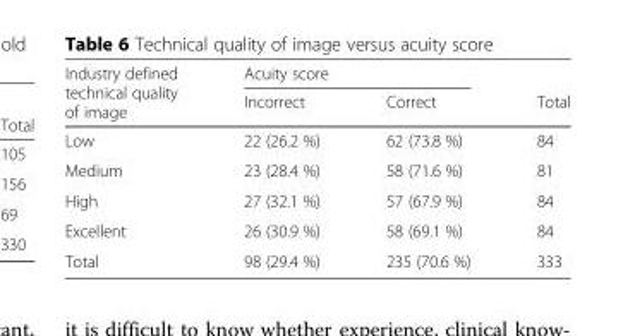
<table><thead><tr><td rowspan="2">Industry defined technical quality of image</td><td colspan="2">Acuity score</td><td rowspan="2">Total</td></tr><tr><td>Incorrect</td><td>Correct</td></tr></thead><tbody><tr><td>Low</td><td>22 (26.2 %)</td><td>62 (73.8 %)</td><td>84</td></tr><tr><td>Medium</td><td>23 (28.4 %)</td><td>58 (71.6 %)</td><td>81</td></tr><tr><td>High</td><td>27 (32.1 %)</td><td>57 (67.9 %)</td><td>84</td></tr><tr><td>Excellent</td><td>26 (30.9 %)</td><td>58 (69.1 %)</td><td>84</td></tr><tr><td>Total</td><td>98 (29.4 %)</td><td>235 (70.6 %)</td><td>333</td></tr></tbody></table>